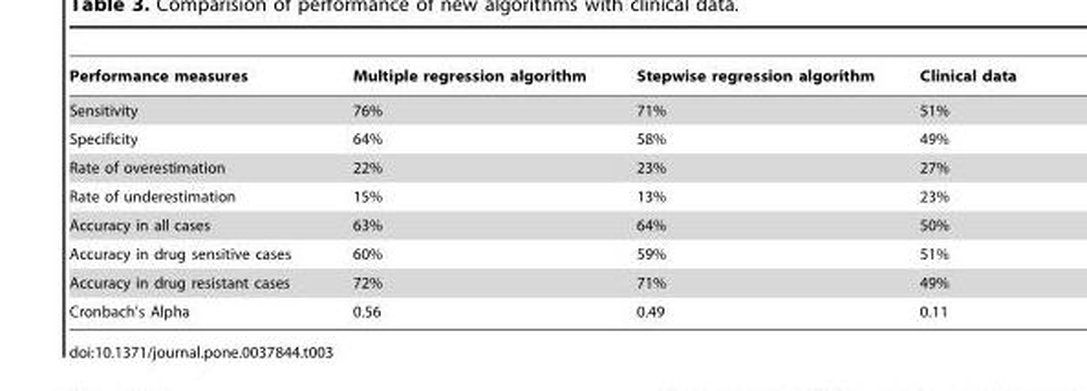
<table><thead><tr><td>Performance measures</td><td>Multiple regression algorithm</td><td>Stepwise regression algorithm</td><td>Clinical data</td></tr></thead><tbody><tr><td>Sensitivity</td><td>76%</td><td>71%</td><td>51%</td></tr><tr><td>Specificity</td><td>64%</td><td>58%</td><td>49%</td></tr><tr><td>Rate of overestimation</td><td>22%</td><td>23%</td><td>27%</td></tr><tr><td>Rate of underestimation</td><td>15%</td><td>13%</td><td>23%</td></tr><tr><td>Accuracy in all cases</td><td>63%</td><td>64%</td><td>50%</td></tr><tr><td>Accuracy in drug sensitive cases</td><td>60%</td><td>59%</td><td>51%</td></tr><tr><td>Accuracy in drug resistant cases</td><td>72%</td><td>71%</td><td>49%</td></tr><tr><td>Cronbach’s Alpha</td><td>0.56</td><td>0.49</td><td>0.11</td></tr></tbody></table>